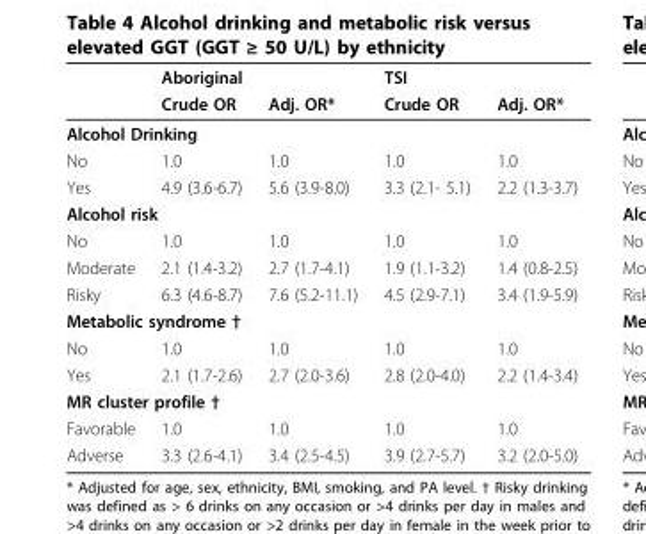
<table><thead><tr><td rowspan="2"></td><td colspan="2">Aboriginal</td><td colspan="2">TSI</td></tr><tr><td>Crude OR</td><td>Adj. OR*</td><td>Crude OR</td><td>Adj. OR*</td></tr></thead><tbody><tr><td colspan="5">Alcohol Drinking</td></tr><tr><td>No</td><td>1.0</td><td>1.0</td><td>1.0</td><td>1.0</td></tr><tr><td>Yes</td><td>4.9 (3.6-6.7)</td><td>5.6 (3.9-8.0)</td><td>3.3 (2.1- 5.1)</td><td>2.2 (1.3-3.7)</td></tr><tr><td colspan="5">Alcohol risk</td></tr><tr><td>No</td><td>1.0</td><td>1.0</td><td>1.0</td><td>1.0</td></tr><tr><td>Moderate</td><td>2.1 (1.4-3.2)</td><td>2.7 (1.7-4.1)</td><td>1.9 (1.1-3.2)</td><td>1.4 (0.8-2.5)</td></tr><tr><td>Risky</td><td>6.3 (4.6-8.7)</td><td>7.6 (5.2-11.1)</td><td>4.5 (2.9-7.1)</td><td>3.4 (1.9-5.9)</td></tr><tr><td colspan="5">Metabolic syndrome †</td></tr><tr><td>No</td><td>1.0</td><td>1.0</td><td>1.0</td><td>1.0</td></tr><tr><td>Yes</td><td>2.1 (1.7-2.6)</td><td>2.7 (2.0-3.6)</td><td>2.8 (2.0-4.0)</td><td>2.2 (1.4-3.4)</td></tr><tr><td colspan="5">MR cluster profile †</td></tr><tr><td>Favorable</td><td>1.0</td><td>1.0</td><td>1.0</td><td>1.0</td></tr><tr><td>Adverse</td><td>3.3 (2.6-4.1)</td><td>3.4 (2.5-4.5)</td><td>3.9 (2.7-5.7)</td><td>3.2 (2.0-5.0)</td></tr></tbody></table>